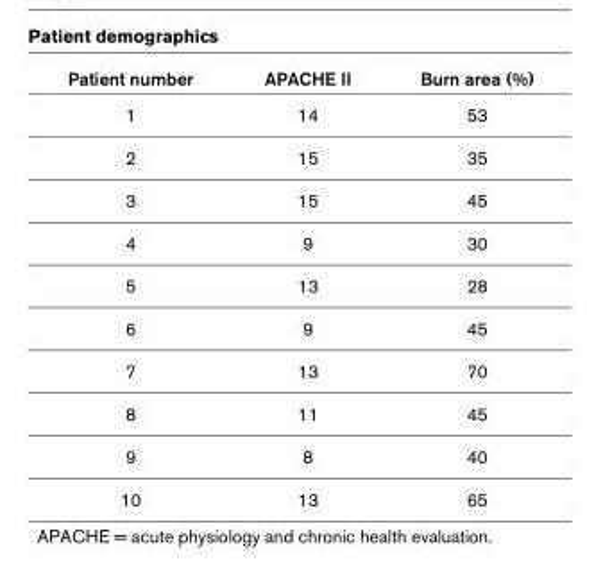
<table><thead><tr><td>Patient number</td><td>APACHE II</td><td>Burn area (%)</td></tr></thead><tbody><tr><td>1</td><td>14</td><td>53</td></tr><tr><td>2</td><td>15</td><td>35</td></tr><tr><td>3</td><td>15</td><td>45</td></tr><tr><td>4</td><td>9</td><td>30</td></tr><tr><td>5</td><td>13</td><td>28</td></tr><tr><td>6</td><td>9</td><td>45</td></tr><tr><td>7</td><td>13</td><td>70</td></tr><tr><td>8</td><td>11</td><td>45</td></tr><tr><td>9</td><td>8</td><td>40</td></tr><tr><td>10</td><td>13</td><td>65</td></tr></tbody></table>